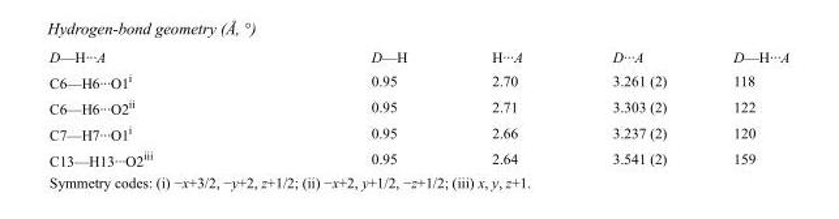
<table><tbody><tr><td>D—H···A</td><td>D—H</td><td>H···A</td><td>D···A</td><td>D—H···A</td></tr><tr><td>C6—H6···O1<sup>i</sup></td><td>0.95</td><td>2.70</td><td>3.261 (2)</td><td>118</td></tr><tr><td>C6—H6···O2<sup>ii</sup></td><td>0.95</td><td>2.71</td><td>3.303 (2)</td><td>122</td></tr><tr><td>C7—H7···O1<sup>i</sup></td><td>0.95</td><td>2.66</td><td>3.237 (2)</td><td>120</td></tr><tr><td>C13—H13···O2<sup>iii</sup></td><td>0.95</td><td>2.64</td><td>3.541 (2)</td><td>159</td></tr></tbody></table>